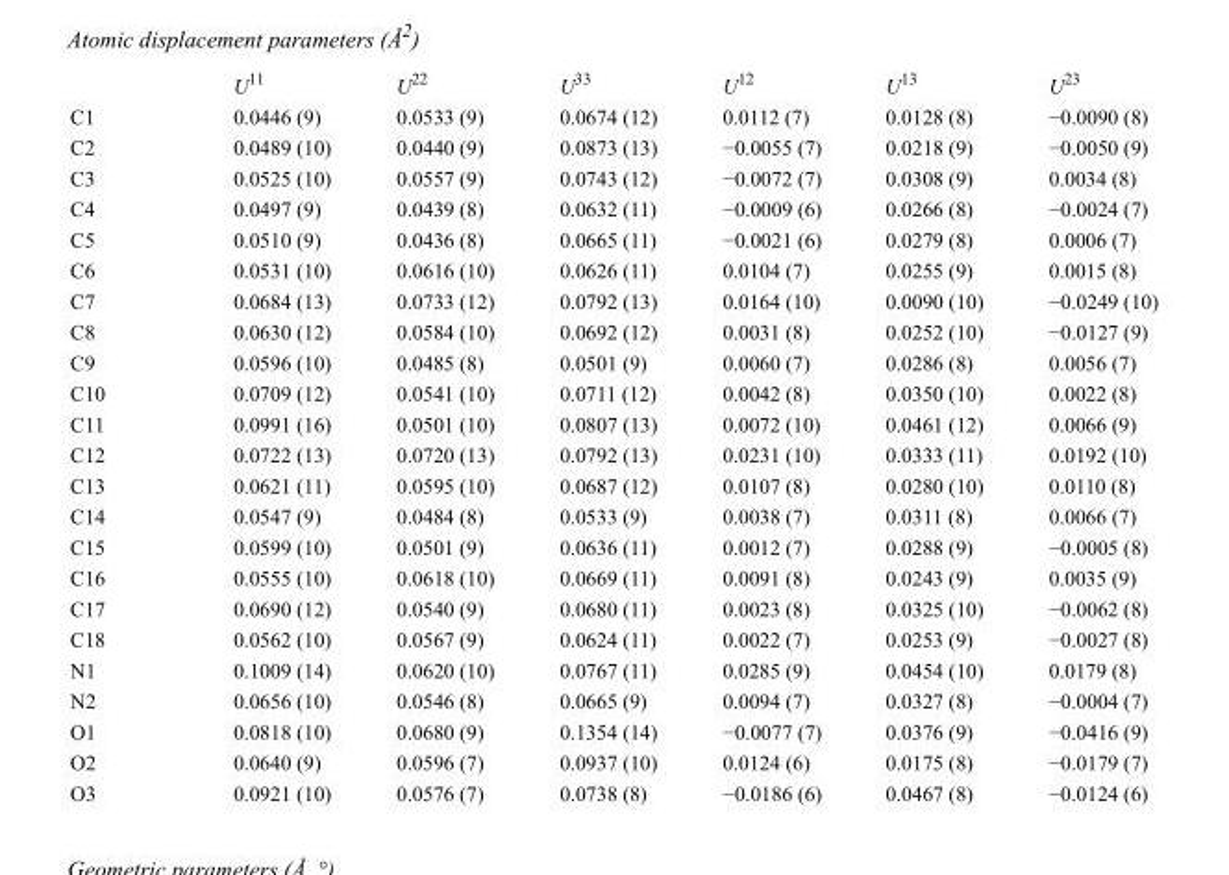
<table><thead><tr><td></td><td>U<sup>11</sup></td><td>U<sup>22</sup></td><td>U<sup>33</sup></td><td>U<sup>12</sup></td><td>U<sup>13</sup></td><td>U<sup>23</sup></td></tr></thead><tbody><tr><td>C1</td><td>0.0446 (9)</td><td>0.0533 (9)</td><td>0.0674 (12)</td><td>0.0112 (7)</td><td>0.0128 (8)</td><td>−0.0090 (8)</td></tr><tr><td>C2</td><td>0.0489 (10)</td><td>0.0440 (9)</td><td>0.0873 (13)</td><td>−0.0055 (7)</td><td>0.0218 (9)</td><td>−0.0050 (9)</td></tr><tr><td>C3</td><td>0.0525 (10)</td><td>0.0557 (9)</td><td>0.0743 (12)</td><td>−0.0072 (7)</td><td>0.0308 (9)</td><td>0.0034 (8)</td></tr><tr><td>C4</td><td>0.0497 (9)</td><td>0.0439 (8)</td><td>0.0632 (11)</td><td>−0.0009 (6)</td><td>0.0266 (8)</td><td>−0.0024 (7)</td></tr><tr><td>C5</td><td>0.0510 (9)</td><td>0.0436 (8)</td><td>0.0665 (11)</td><td>−0.0021 (6)</td><td>0.0279 (8)</td><td>0.0006 (7)</td></tr><tr><td>C6</td><td>0.0531 (10)</td><td>0.0616 (10)</td><td>0.0626 (11)</td><td>0.0104 (7)</td><td>0.0255 (9)</td><td>0.0015 (8)</td></tr><tr><td>C7</td><td>0.0684 (13)</td><td>0.0733 (12)</td><td>0.0792 (13)</td><td>0.0164 (10)</td><td>0.0090 (10)</td><td>−0.0249 (10)</td></tr><tr><td>C8</td><td>0.0630 (12)</td><td>0.0584 (10)</td><td>0.0692 (12)</td><td>0.0031 (8)</td><td>0.0252 (10)</td><td>−0.0127 (9)</td></tr><tr><td>C9</td><td>0.0596 (10)</td><td>0.0485 (8)</td><td>0.0501 (9)</td><td>0.0060 (7)</td><td>0.0286 (8)</td><td>0.0056 (7)</td></tr><tr><td>C10</td><td>0.0709 (12)</td><td>0.0541 (10)</td><td>0.0711 (12)</td><td>0.0042 (8)</td><td>0.0350 (10)</td><td>0.0022 (8)</td></tr><tr><td>C11</td><td>0.0991 (16)</td><td>0.0501 (10)</td><td>0.0807 (13)</td><td>0.0072 (10)</td><td>0.0461 (12)</td><td>0.0066 (9)</td></tr><tr><td>C12</td><td>0.0722 (13)</td><td>0.0720 (13)</td><td>0.0792 (13)</td><td>0.0231 (10)</td><td>0.0333 (11)</td><td>0.0192 (10)</td></tr><tr><td>C13</td><td>0.0621 (11)</td><td>0.0595 (10)</td><td>0.0687 (12)</td><td>0.0107 (8)</td><td>0.0280 (10)</td><td>0.0110 (8)</td></tr><tr><td>C14</td><td>0.0547 (9)</td><td>0.0484 (8)</td><td>0.0533 (9)</td><td>0.0038 (7)</td><td>0.0311 (8)</td><td>0.0066 (7)</td></tr><tr><td>C15</td><td>0.0599 (10)</td><td>0.0501 (9)</td><td>0.0636 (11)</td><td>0.0012 (7)</td><td>0.0288 (9)</td><td>−0.0005 (8)</td></tr><tr><td>C16</td><td>0.0555 (10)</td><td>0.0618 (10)</td><td>0.0669 (11)</td><td>0.0091 (8)</td><td>0.0243 (9)</td><td>0.0035 (9)</td></tr><tr><td>C17</td><td>0.0690 (12)</td><td>0.0540 (9)</td><td>0.0680 (11)</td><td>0.0023 (8)</td><td>0.0325 (10)</td><td>−0.0062 (8)</td></tr><tr><td>C18</td><td>0.0562 (10)</td><td>0.0567 (9)</td><td>0.0624 (11)</td><td>0.0022 (7)</td><td>0.0253 (9)</td><td>−0.0027 (8)</td></tr><tr><td>N1</td><td>0.1009 (14)</td><td>0.0620 (10)</td><td>0.0767 (11)</td><td>0.0285 (9)</td><td>0.0454 (10)</td><td>0.0179 (8)</td></tr><tr><td>N2</td><td>0.0656 (10)</td><td>0.0546 (8)</td><td>0.0665 (9)</td><td>0.0094 (7)</td><td>0.0327 (8)</td><td>−0.0004 (7)</td></tr><tr><td>O1</td><td>0.0818 (10)</td><td>0.0680 (9)</td><td>0.1354 (14)</td><td>−0.0077 (7)</td><td>0.0376 (9)</td><td>−0.0416 (9)</td></tr><tr><td>O2</td><td>0.0640 (9)</td><td>0.0596 (7)</td><td>0.0937 (10)</td><td>0.0124 (6)</td><td>0.0175 (8)</td><td>−0.0179 (7)</td></tr><tr><td>O3</td><td>0.0921 (10)</td><td>0.0576 (7)</td><td>0.0738 (8)</td><td>−0.0186 (6)</td><td>0.0467 (8)</td><td>−0.0124 (6)</td></tr></tbody></table>